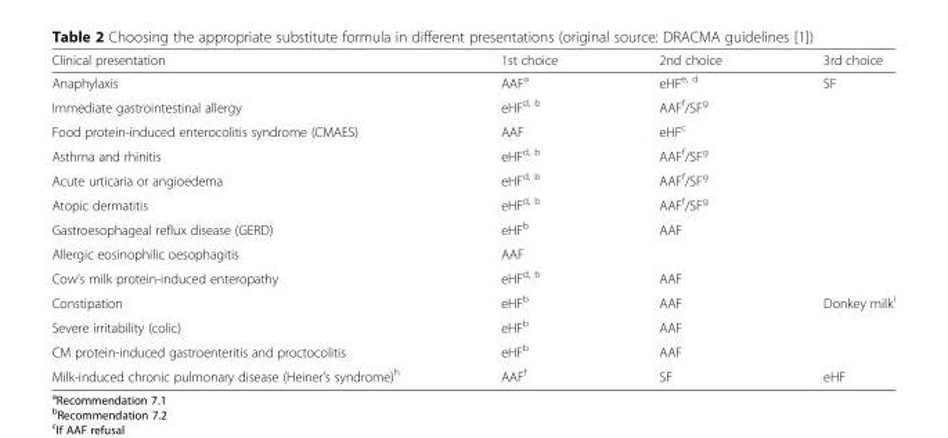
<table><thead><tr><td>Clinical presentation</td><td>1st choice</td><td>2nd choice</td><td>3rd choice</td></tr></thead><tbody><tr><td>Anaphylaxis</td><td>AAF<sup>a</sup></td><td>eHF<sup>e, d</sup></td><td>SF</td></tr><tr><td>Immediate gastrointestinal allergy</td><td>eHF<sup>d, b</sup></td><td>AAF<sup>f</sup>/SF<sup>g</sup></td><td></td></tr><tr><td>Food protein-induced enterocolitis syndrome (CMAES)</td><td>AAF</td><td>eHF<sup>c</sup></td><td></td></tr><tr><td>Asthma and rhinitis</td><td>eHF<sup>d, b</sup></td><td>AAF<sup>f</sup>/SF<sup>g</sup></td><td></td></tr><tr><td>Acute urticaria or angioedema</td><td>eHF<sup>d, b</sup></td><td>AAF<sup>f</sup>/SF<sup>g</sup></td><td></td></tr><tr><td>Atopic dermatitis</td><td>eHF<sup>d, b</sup></td><td>AAF<sup>f</sup>/SF<sup>g</sup></td><td></td></tr><tr><td>Gastroesophageal reflux disease (GERD)</td><td>eHF<sup>b</sup></td><td>AAF</td><td></td></tr><tr><td>Allergic eosinophilic oesophagitis</td><td>AAF</td><td></td><td></td></tr><tr><td>Cow’s milk protein-induced enteropathy</td><td>eHF<sup>d, b</sup></td><td>AAF</td><td></td></tr><tr><td>Constipation</td><td>eHF<sup>b</sup></td><td>AAF</td><td>Donkey milk<sup>i</sup></td></tr><tr><td>Severe irritability (colic)</td><td>eHF<sup>b</sup></td><td>AAF</td><td></td></tr><tr><td>CM protein-induced gastroenteritis and proctocolitis</td><td>eHF<sup>b</sup></td><td>AAF</td><td></td></tr><tr><td>Milk-induced chronic pulmonary disease (Heiner’s syndrome)<sup>h</sup></td><td>AAF<sup>f</sup></td><td>SF</td><td>eHF</td></tr></tbody></table>